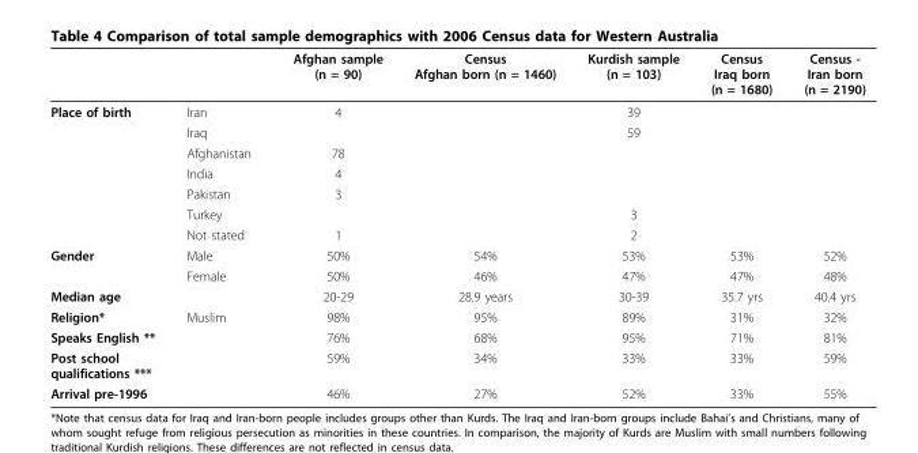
<table><thead><tr><td></td><td></td><td>Afghan sample (n = 90)</td><td>Census Afghan born (n = 1460)</td><td>Kurdish sample (n = 103)</td><td>Census Iraq born (n = 1680)</td><td>Census - Iran born (n = 2190)</td></tr></thead><tbody><tr><td rowspan="7">Place of birth</td><td>Iran</td><td>4</td><td></td><td>39</td><td></td><td></td></tr><tr><td>Iraq</td><td></td><td></td><td>59</td><td></td><td></td></tr><tr><td>Afghanistan</td><td>78</td><td></td><td></td><td></td><td></td></tr><tr><td>India</td><td>4</td><td></td><td></td><td></td><td></td></tr><tr><td>Pakistan</td><td>3</td><td></td><td></td><td></td><td></td></tr><tr><td>Turkey</td><td></td><td></td><td>3</td><td></td><td></td></tr><tr><td>Not stated</td><td>1</td><td></td><td>2</td><td></td><td></td></tr><tr><td rowspan="2">Gender</td><td>Male</td><td>50%</td><td>54%</td><td>53%</td><td>53%</td><td>52%</td></tr><tr><td>Female</td><td>50%</td><td>46%</td><td>47%</td><td>47%</td><td>48%</td></tr><tr><td>Median age</td><td></td><td>20-29</td><td>28.9 years</td><td>30-39</td><td>35.7 yrs</td><td>40.4 yrs</td></tr><tr><td>Religion*</td><td>Muslim</td><td>98%</td><td>95%</td><td>89%</td><td>31%</td><td>32%</td></tr><tr><td>Speaks English **</td><td></td><td>76%</td><td>68%</td><td>95%</td><td>71%</td><td>81%</td></tr><tr><td>Post school qualifications ***</td><td></td><td>59%</td><td>34%</td><td>33%</td><td>33%</td><td>59%</td></tr><tr><td>Arrival pre-1996</td><td></td><td>46%</td><td>27%</td><td>52%</td><td>33%</td><td>55%</td></tr></tbody></table>